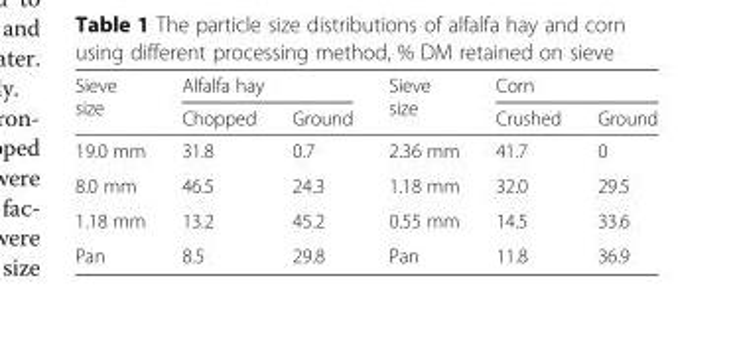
<table><thead><tr><td rowspan="2">Sieve size</td><td colspan="2">Alfalfa hay</td><td rowspan="2">Sieve size</td><td colspan="2">Corn</td></tr><tr><td>Chopped</td><td>Ground</td><td>Crushed</td><td>Ground</td></tr></thead><tbody><tr><td>19.0 mm</td><td>31.8</td><td>0.7</td><td>2.36 mm</td><td>41.7</td><td>0</td></tr><tr><td>8.0 mm</td><td>46.5</td><td>24.3</td><td>1.18 mm</td><td>32.0</td><td>29.5</td></tr><tr><td>1.18 mm</td><td>13.2</td><td>45.2</td><td>0.55 mm</td><td>14.5</td><td>33.6</td></tr><tr><td>Pan</td><td>8.5</td><td>29.8</td><td>Pan</td><td>11.8</td><td>36.9</td></tr></tbody></table>